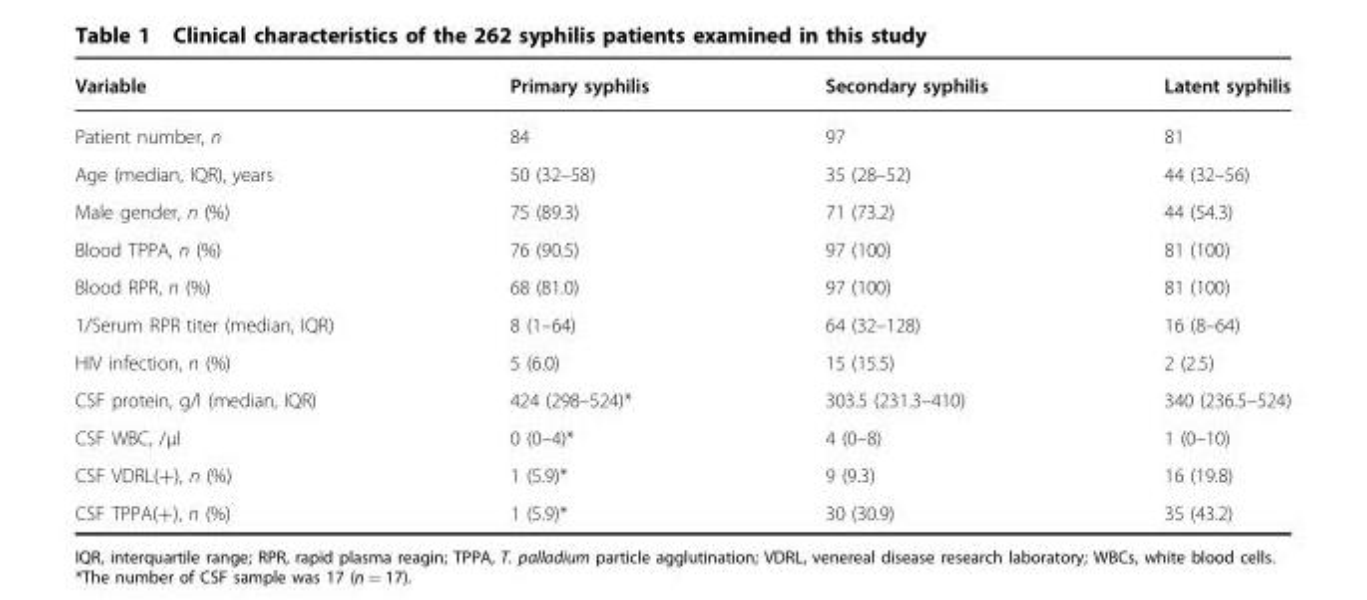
<table><thead><tr><td>Variable</td><td>Primary syphilis</td><td>Secondary syphilis</td><td>Latent syphilis</td></tr></thead><tbody><tr><td>Patient number, n</td><td>84</td><td>97</td><td>81</td></tr><tr><td>Age (median, IQR), years</td><td>50 (32–58)</td><td>35 (28–52)</td><td>44 (32–56)</td></tr><tr><td>Male gender, n (%)</td><td>75 (89.3)</td><td>71 (73.2)</td><td>44 (54.3)</td></tr><tr><td>Blood TPPA, n (%)</td><td>76 (90.5)</td><td>97 (100)</td><td>81 (100)</td></tr><tr><td>Blood RPR, n (%)</td><td>68 (81.0)</td><td>97 (100)</td><td>81 (100)</td></tr><tr><td>1/Serum RPR titer (median, IQR)</td><td>8 (1–64)</td><td>64 (32–128)</td><td>16 (8–64)</td></tr><tr><td>HIV infection, n (%)</td><td>5 (6.0)</td><td>15 (15.5)</td><td>2 (2.5)</td></tr><tr><td>CSF protein, g/l (median, IQR)</td><td>424 (298–524)*</td><td>303.5 (231.3–410)</td><td>340 (236.5–524)</td></tr><tr><td>CSF WBC, /μl</td><td>0 (0–4)*</td><td>4 (0–8)</td><td>1 (0–10)</td></tr><tr><td>CSF VDRL(+), n (%)</td><td>1 (5.9)*</td><td>9 (9.3)</td><td>16 (19.8)</td></tr><tr><td>CSF TPPA(+), n (%)</td><td>1 (5.9)*</td><td>30 (30.9)</td><td>35 (43.2)</td></tr></tbody></table>